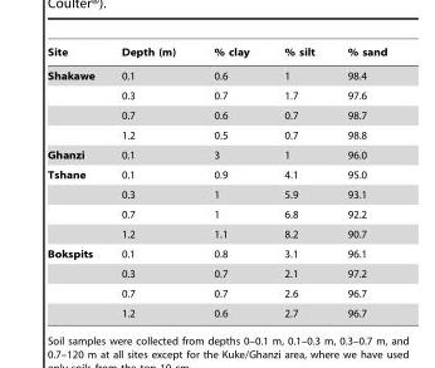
<table><thead><tr><td>Site</td><td>Depth (m)</td><td>% clay</td><td>% silt</td><td>% sand</td></tr></thead><tbody><tr><td rowspan="4">Shakawe</td><td>0.1</td><td>0.6</td><td>1</td><td>98.4</td></tr><tr><td>0.3</td><td>0.7</td><td>1.7</td><td>97.6</td></tr><tr><td>0.7</td><td>0.6</td><td>0.7</td><td>98.7</td></tr><tr><td>1.2</td><td>0.5</td><td>0.7</td><td>98.8</td></tr><tr><td>Ghanzi</td><td>0.1</td><td>3</td><td>1</td><td>96.0</td></tr><tr><td rowspan="4">Tshane</td><td>0.1</td><td>0.9</td><td>4.1</td><td>95.0</td></tr><tr><td>0.3</td><td>1</td><td>5.9</td><td>93.1</td></tr><tr><td>0.7</td><td>1</td><td>6.8</td><td>92.2</td></tr><tr><td>1.2</td><td>1.1</td><td>8.2</td><td>90.7</td></tr><tr><td rowspan="4">Bokspits</td><td>0.1</td><td>0.8</td><td>3.1</td><td>96.1</td></tr><tr><td>0.3</td><td>0.7</td><td>2.1</td><td>97.2</td></tr><tr><td>0.7</td><td>0.7</td><td>2.6</td><td>96.7</td></tr><tr><td>1.2</td><td>0.6</td><td>2.7</td><td>96.7</td></tr></tbody></table>